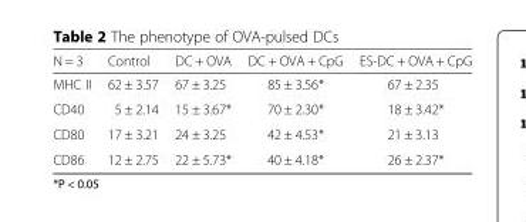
<table><thead><tr><td>N = 3</td><td>Control</td><td>DC + OVA</td><td>DC + OVA + CpG</td><td>ES-DC + OVA + CpG</td></tr></thead><tbody><tr><td>MHC II</td><td>62 ± 3.57</td><td>67 ± 3.25</td><td>85 ± 3.56*</td><td>67 ± 2.35</td></tr><tr><td>CD40</td><td>5 ± 2.14</td><td>15 ± 3.67*</td><td>70 ± 2.30*</td><td>18 ± 3.42*</td></tr><tr><td>CD80</td><td>17 ± 3.21</td><td>24 ± 3.25</td><td>42 ± 4.53*</td><td>21 ± 3.13</td></tr><tr><td>CD86</td><td>12 ± 2.75</td><td>22 ± 5.73*</td><td>40 ± 4.18*</td><td>26 ± 2.37*</td></tr></tbody></table>